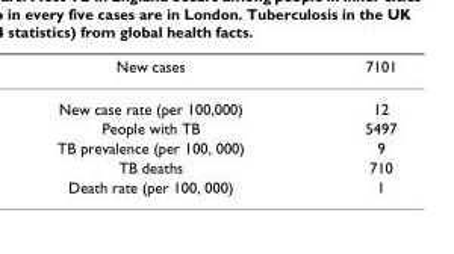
<table><thead><tr><td>New cases</td><td>7101</td></tr></thead><tbody><tr><td>New case rate (per 100,000)</td><td>12</td></tr><tr><td>People with TB</td><td>5497</td></tr><tr><td>TB prevalence (per 100, 000)</td><td>9</td></tr><tr><td>TB deaths</td><td>710</td></tr><tr><td>Death rate (per 100, 000)</td><td>1</td></tr></tbody></table>